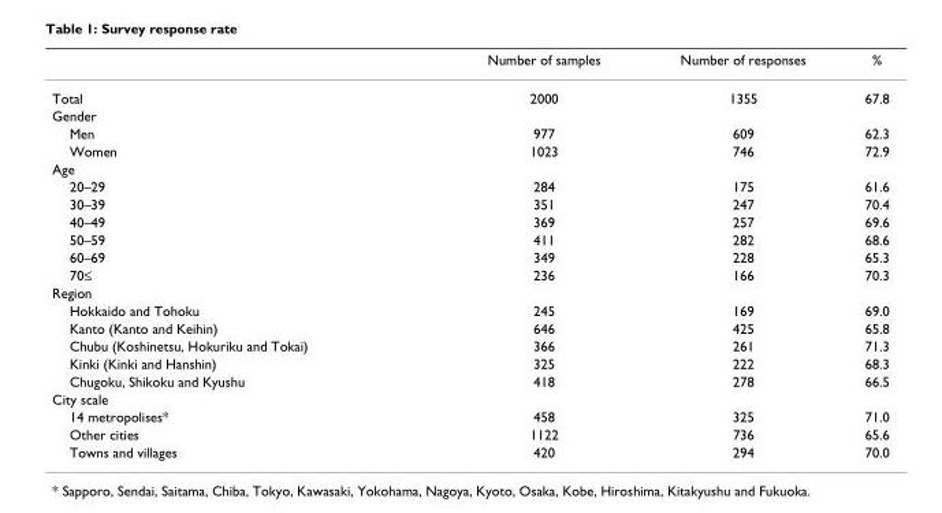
<table><thead><tr><td></td><td>Number of samples</td><td>Number of responses</td><td>%</td></tr></thead><tbody><tr><td>Total</td><td>2000</td><td>1355</td><td>67.8</td></tr><tr><td colspan="4">Gender</td></tr><tr><td>Men</td><td>977</td><td>609</td><td>62.3</td></tr><tr><td>Women</td><td>1023</td><td>746</td><td>72.9</td></tr><tr><td colspan="4">Age</td></tr><tr><td>20–29</td><td>284</td><td>175</td><td>61.6</td></tr><tr><td>30–39</td><td>351</td><td>247</td><td>70.4</td></tr><tr><td>40–49</td><td>369</td><td>257</td><td>69.6</td></tr><tr><td>50–59</td><td>411</td><td>282</td><td>68.6</td></tr><tr><td>60–69</td><td>349</td><td>228</td><td>65.3</td></tr><tr><td>70≤</td><td>236</td><td>166</td><td>70.3</td></tr><tr><td colspan="4">Region</td></tr><tr><td>Hokkaido and Tohoku</td><td>245</td><td>169</td><td>69.0</td></tr><tr><td>Kanto (Kanto and Keihin)</td><td>646</td><td>425</td><td>65.8</td></tr><tr><td>Chubu (Koshinetsu, Hokuriku and Tokai)</td><td>366</td><td>261</td><td>71.3</td></tr><tr><td>Kinki (Kinki and Hanshin)</td><td>325</td><td>222</td><td>68.3</td></tr><tr><td>Chugoku, Shikoku and Kyushu</td><td>418</td><td>278</td><td>66.5</td></tr><tr><td colspan="4">City scale</td></tr><tr><td>14 metropolises*</td><td>458</td><td>325</td><td>71.0</td></tr><tr><td>Other cities</td><td>1122</td><td>736</td><td>65.6</td></tr><tr><td>Towns and villages</td><td>420</td><td>294</td><td>70.0</td></tr></tbody></table>